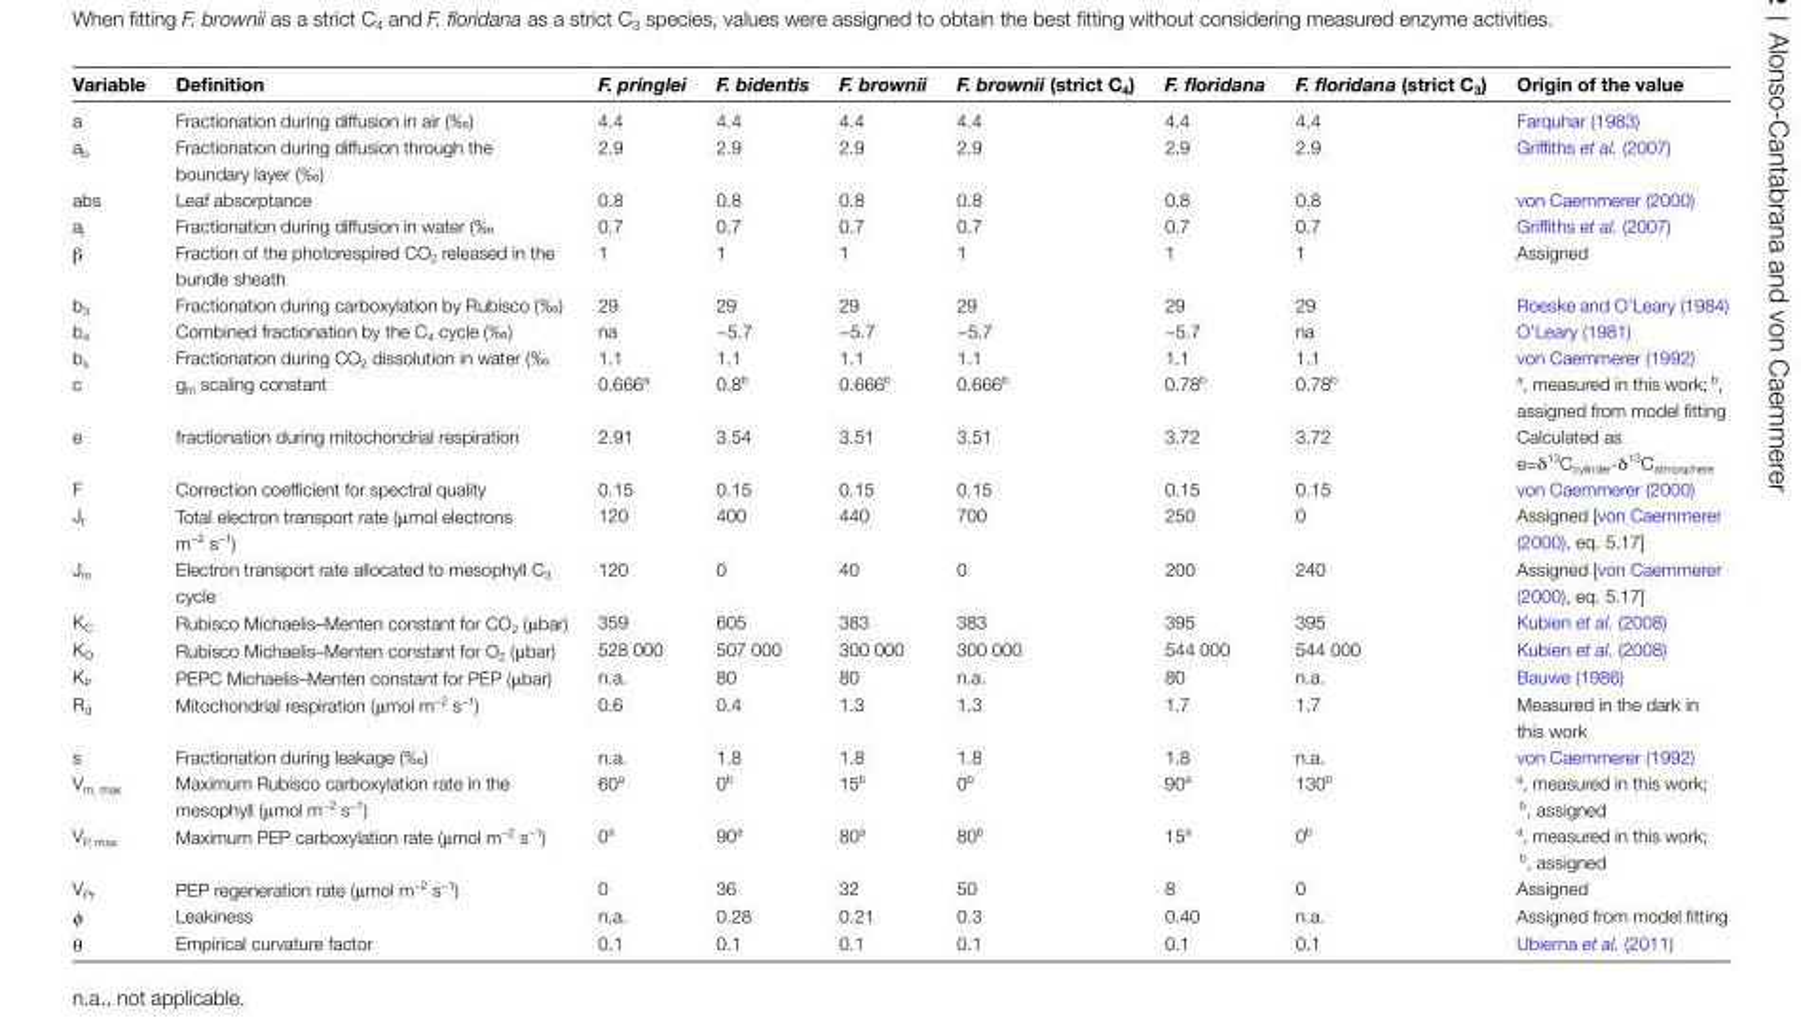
<table><thead><tr><td>Variable</td><td>Definition</td><td>F. pringlei</td><td>F. bidentis</td><td>F. brownii</td><td>F. brownii (strict C<sub>4</sub>)</td><td>F. floridana</td><td>F. floridana (strict C<sub>3</sub>)</td><td>Origin of the value</td></tr></thead><tbody><tr><td>a</td><td>Fractionation during diffusion in air (‰)</td><td>4.4</td><td>4.4</td><td>4.4</td><td>4.4</td><td>4.4</td><td>4.4</td><td>Farquhar (1983)</td></tr><tr><td>a<sub>b</sub></td><td>Fractionation during diffusion through the boundary layer (‰)</td><td>2.9</td><td>2.9</td><td>2.9</td><td>2.9</td><td>2.9</td><td>2.9</td><td>Griffiths et al. (2007)</td></tr><tr><td>abs</td><td>Leaf absorptance</td><td>0.8</td><td>0.8</td><td>0.8</td><td>0.8</td><td>0.8</td><td>0.8</td><td>von Caemmerer (2000)</td></tr><tr><td>a<sub>l</sub></td><td>Fractionation during diffusion in water (‰</td><td>0.7</td><td>0.7</td><td>0.7</td><td>0.7</td><td>0.7</td><td>0.7</td><td>Griffiths et al. (2007)</td></tr><tr><td>β</td><td>Fraction of the photorespired CO<sub>2</sub> released in the bundle sheath</td><td>1</td><td>1</td><td>1</td><td>1</td><td>1</td><td>1</td><td>Assigned</td></tr><tr><td>b<sub>3</sub></td><td>Fractionation during carboxylation by Rubisco (‰)</td><td>29</td><td>29</td><td>29</td><td>29</td><td>29</td><td>29</td><td>Roeske and O’Leary (1984)</td></tr><tr><td>b<sub>4</sub></td><td>Combined fractionation by the C<sub>4</sub> cycle (‰)</td><td>na</td><td>−5.7</td><td>−5.7</td><td>−5.7</td><td>−5.7</td><td>na</td><td>O’Leary (1981)</td></tr><tr><td>b<sub>s</sub></td><td>Fractionation during CO<sub>2</sub> dissolution in water (‰</td><td>1.1</td><td>1.1</td><td>1.1</td><td>1.1</td><td>1.1</td><td>1.1</td><td>von Caemmerer (1992)</td></tr><tr><td>c</td><td>g<sub>m</sub> scaling constant</td><td>0.666<sup>a</sup></td><td>0.8<sup>b</sup></td><td>0.666<sup>b</sup></td><td>0.666<sup>b</sup></td><td>0.78<sup>b</sup></td><td>0.78<sup>b</sup></td><td><sup>a</sup>, measured in this work; <sup>b</sup>, assigned from model fitting</td></tr><tr><td>e</td><td>fractionation during mitochondrial respiration</td><td>2.91</td><td>3.54</td><td>3.51</td><td>3.51</td><td>3.72</td><td>3.72</td><td>Calculated as e=δ<sup>13</sup>C<sub>cylinder</sub>-δ<sup>13</sup>C<sub>atmosphere</sub></td></tr><tr><td>F</td><td>Correction coefficient for spectral quality</td><td>0.15</td><td>0.15</td><td>0.15</td><td>0.15</td><td>0.15</td><td>0.15</td><td>von Caemmerer (2000)</td></tr><tr><td>J<sub>t</sub></td><td>Total electron transport rate (μmol electrons m<sup>−2</sup> s<sup>−1</sup>)</td><td>120</td><td>400</td><td>440</td><td>700</td><td>250</td><td>0</td><td>Assigned [von Caemmerer (2000), eq. 5.17]</td></tr><tr><td>J<sub>m</sub></td><td>Electron transport rate allocated to mesophyll C<sub>3</sub> cycle</td><td>120</td><td>0</td><td>40</td><td>0</td><td>200</td><td>240</td><td>Assigned [von Caemmerer (2000), eq. 5.17]</td></tr><tr><td>K<sub>C</sub></td><td>Rubisco Michaelis–Menten constant for CO<sub>2</sub> (μbar)</td><td>359</td><td>605</td><td>383</td><td>383</td><td>395</td><td>395</td><td>Kubien et al. (2008)</td></tr><tr><td>K<sub>O</sub></td><td>Rubisco Michaelis–Menten constant for O<sub>2</sub> (μbar)</td><td>528 000</td><td>507 000</td><td>300 000</td><td>300 000</td><td>544 000</td><td>544 000</td><td>Kubien et al. (2008)</td></tr><tr><td>K<sub>P</sub></td><td>PEPC Michaelis–Menten constant for PEP (μbar)</td><td>n.a.</td><td>80</td><td>80</td><td>n.a.</td><td>80</td><td>n.a.</td><td>Bauwe (1986)</td></tr><tr><td>R<sub>d</sub></td><td>Mitochondrial respiration (μmol m<sup>−2</sup> s<sup>−1</sup>)</td><td>0.6</td><td>0.4</td><td>1.3</td><td>1.3</td><td>1.7</td><td>1.7</td><td>Measured in the dark in this work</td></tr><tr><td>s</td><td>Fractionation during leakage (‰)</td><td>n.a.</td><td>1.8</td><td>1.8</td><td>1.8</td><td>1.8</td><td>n.a.</td><td>von Caemmerer (1992)</td></tr><tr><td>V<sub>m, max</sub></td><td>Maximum Rubisco carboxylation rate in the mesophyll (μmol m<sup>−2</sup> s<sup>−1</sup>)</td><td>60<sup>a</sup></td><td>0<sup>b</sup></td><td>15<sup>b</sup></td><td>0<sup>b</sup></td><td>90<sup>a</sup></td><td>130<sup>b</sup></td><td><sup>a</sup>, measured in this work; <sup>b</sup>, assigned</td></tr><tr><td>V<sub>P, max</sub></td><td>Maximum PEP carboxylation rate (μmol m<sup>−2</sup> s<sup>−1</sup>)</td><td>0<sup>a</sup></td><td>90<sup>a</sup></td><td>80<sup>a</sup></td><td>80<sup>b</sup></td><td>15<sup>a</sup></td><td>0<sup>b</sup></td><td><sup>a</sup>, measured in this work; <sup>b</sup>, assigned</td></tr><tr><td>V<sub>Pr</sub></td><td>PEP regeneration rate (μmol m<sup>−2</sup> s<sup>−1</sup>)</td><td>0</td><td>36</td><td>32</td><td>50</td><td>8</td><td>0</td><td>Assigned</td></tr><tr><td>φ</td><td>Leakiness</td><td>n.a.</td><td>0.28</td><td>0.21</td><td>0.3</td><td>0.40</td><td>n.a.</td><td>Assigned from model fitting</td></tr><tr><td>θ</td><td>Empirical curvature factor</td><td>0.1</td><td>0.1</td><td>0.1</td><td>0.1</td><td>0.1</td><td>0.1</td><td>Ubierna et al. (2011)</td></tr></tbody></table>